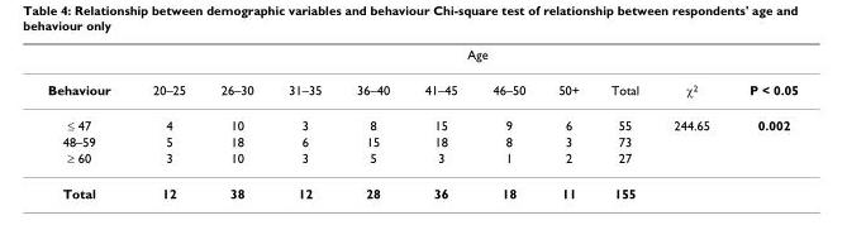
<table><thead><tr><td rowspan="2">Behaviour</td><td colspan="10">Age</td></tr><tr><td>20–25</td><td>26–30</td><td>31–35</td><td>36–40</td><td>41–45</td><td>46–50</td><td>50+</td><td>Total</td><td>χ<sup>2</sup></td><td>P &lt; 0.05</td></tr></thead><tbody><tr><td>≤ 47</td><td>4</td><td>10</td><td>3</td><td>8</td><td>15</td><td>9</td><td>6</td><td>55</td><td>244.65</td><td>0.002</td></tr><tr><td>48–59</td><td>5</td><td>18</td><td>6</td><td>15</td><td>18</td><td>8</td><td>3</td><td>73</td><td></td><td></td></tr><tr><td>≥ 60</td><td>3</td><td>10</td><td>3</td><td>5</td><td>3</td><td>1</td><td>2</td><td>27</td><td></td><td></td></tr><tr><td>Total</td><td>12</td><td>38</td><td>12</td><td>28</td><td>36</td><td>18</td><td>11</td><td>155</td><td></td><td></td></tr></tbody></table>